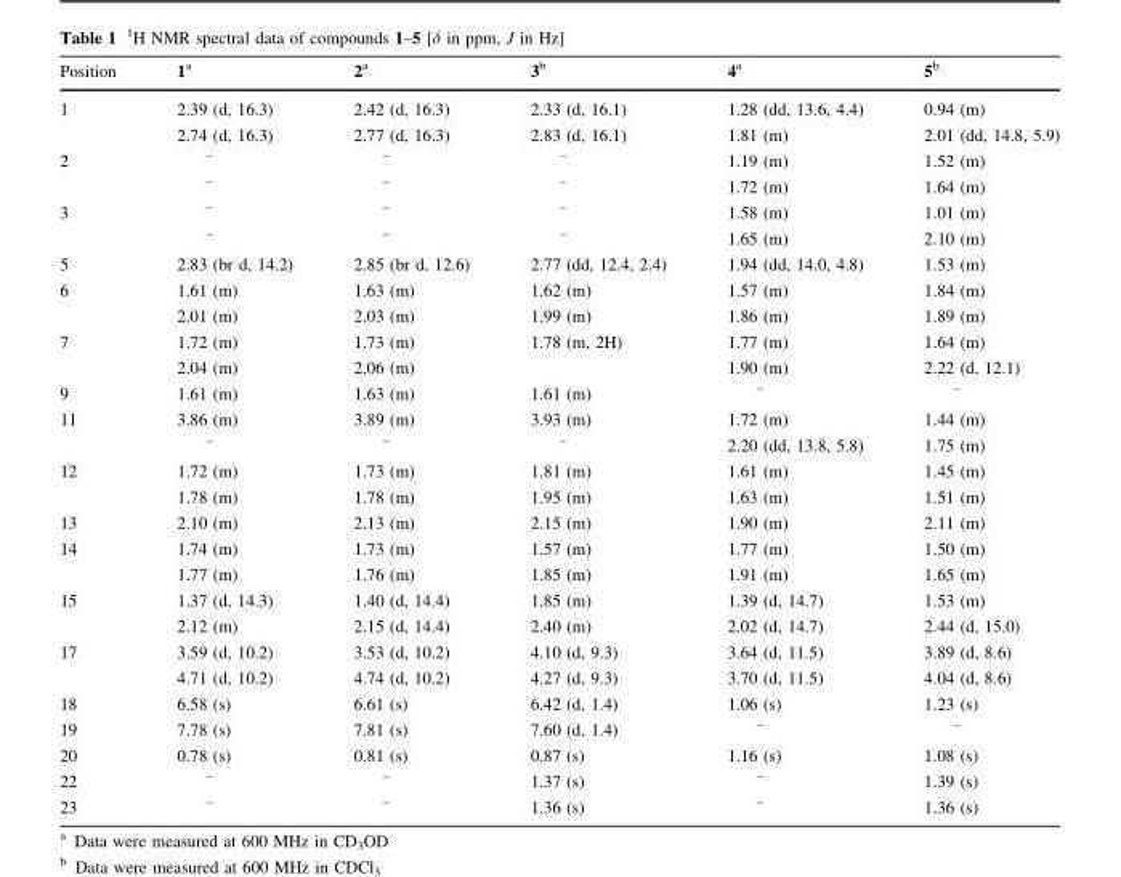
<table><thead><tr><td>Position</td><td>1<sup>a</sup></td><td>2<sup>a</sup></td><td>3<sup>b</sup></td><td>4<sup>a</sup></td><td>5<sup>b</sup></td></tr></thead><tbody><tr><td rowspan="2">1</td><td>2.39 (d, 16.3)</td><td>2.42 (d, 16.3)</td><td>2.33 (d, 16.1)</td><td>1.28 (dd, 13.6, 4.4)</td><td>0.94 (m)</td></tr><tr><td>2.74 (d, 16.3)</td><td>2.77 (d, 16.3)</td><td>2.83 (d, 16.1)</td><td>1.81 (m)</td><td>2.01 (dd, 14.8, 5.9)</td></tr><tr><td rowspan="2">2</td><td><sup>–</sup></td><td><sup>–</sup></td><td><sup>–</sup></td><td>1.19 (m)</td><td>1.52 (m)</td></tr><tr><td><sup>–</sup></td><td><sup>–</sup></td><td><sup>–</sup></td><td>1.72 (m)</td><td>1.64 (m)</td></tr><tr><td rowspan="2">3</td><td><sup>–</sup></td><td><sup>–</sup></td><td><sup>–</sup></td><td>1.58 (m)</td><td>1.01 (m)</td></tr><tr><td><sup>–</sup></td><td><sup>–</sup></td><td><sup>–</sup></td><td>1.65 (m)</td><td>2.10 (m)</td></tr><tr><td>5</td><td>2.83 (br d, 14.2)</td><td>2.85 (br d, 12.6)</td><td>2.77 (dd, 12.4, 2.4)</td><td>1.94 (dd, 14.0, 4.8)</td><td>1.53 (m)</td></tr><tr><td rowspan="2">6</td><td>1.61 (m)</td><td>1.63 (m)</td><td>1.62 (m)</td><td>1.57 (m)</td><td>1.84 (m)</td></tr><tr><td>2.01 (m)</td><td>2.03 (m)</td><td>1.99 (m)</td><td>1.86 (m)</td><td>1.89 (m)</td></tr><tr><td rowspan="2">7</td><td>1.72 (m)</td><td>1.73 (m)</td><td>1.78 (m, 2H)</td><td>1.77 (m)</td><td>1.64 (m)</td></tr><tr><td>2.04 (m)</td><td>2.06 (m)</td><td></td><td>1.90 (m)</td><td>2.22 (d, 12.1)</td></tr><tr><td>9</td><td>1.61 (m)</td><td>1.63 (m)</td><td>1.61 (m)</td><td><sup>–</sup></td><td><sup>–</sup></td></tr><tr><td rowspan="2">11</td><td>3.86 (m)</td><td>3.89 (m)</td><td>3.93 (m)</td><td>1.72 (m)</td><td>1.44 (m)</td></tr><tr><td><sup>–</sup></td><td><sup>–</sup></td><td><sup>–</sup></td><td>2.20 (dd, 13.8, 5.8)</td><td>1.75 (m)</td></tr><tr><td rowspan="2">12</td><td>1.72 (m)</td><td>1.73 (m)</td><td>1.81 (m)</td><td>1.61 (m)</td><td>1.45 (m)</td></tr><tr><td>1.78 (m)</td><td>1.78 (m)</td><td>1.95 (m)</td><td>1.63 (m)</td><td>1.51 (m)</td></tr><tr><td>13</td><td>2.10 (m)</td><td>2.13 (m)</td><td>2.15 (m)</td><td>1.90 (m)</td><td>2.11 (m)</td></tr><tr><td rowspan="2">14</td><td>1.74 (m)</td><td>1.73 (m)</td><td>1.57 (m)</td><td>1.77 (m)</td><td>1.50 (m)</td></tr><tr><td>1.77 (m)</td><td>1.76 (m)</td><td>1.85 (m)</td><td>1.91 (m)</td><td>1.65 (m)</td></tr><tr><td rowspan="2">15</td><td>1.37 (d, 14.3)</td><td>1.40 (d, 14.4)</td><td>1.85 (m)</td><td>1.39 (d, 14.7)</td><td>1.53 (m)</td></tr><tr><td>2.12 (m)</td><td>2.15 (d, 14.4)</td><td>2.40 (m)</td><td>2.02 (d, 14.7)</td><td>2.44 (d, 15.0)</td></tr><tr><td rowspan="2">17</td><td>3.59 (d, 10.2)</td><td>3.53 (d, 10.2)</td><td>4.10 (d, 9.3)</td><td>3.64 (d, 11.5)</td><td>3.89 (d, 8.6)</td></tr><tr><td>4.71 (d, 10.2)</td><td>4.74 (d, 10.2)</td><td>4.27 (d, 9.3)</td><td>3.70 (d, 11.5)</td><td>4.04 (d, 8.6)</td></tr><tr><td>18</td><td>6.58 (s)</td><td>6.61 (s)</td><td>6.42 (d, 1.4)</td><td>1.06 (s)</td><td>1.23 (s)</td></tr><tr><td>19</td><td>7.78 (s)</td><td>7.81 (s)</td><td>7.60 (d, 1.4)</td><td><sup>–</sup></td><td><sup>–</sup></td></tr><tr><td>20</td><td>0.78 (s)</td><td>0.81 (s)</td><td>0.87 (s)</td><td>1.16 (s)</td><td>1.08 (s)</td></tr><tr><td>22</td><td><sup>–</sup></td><td><sup>–</sup></td><td>1.37 (s)</td><td><sup>–</sup></td><td>1.39 (s)</td></tr><tr><td>23</td><td><sup>–</sup></td><td><sup>–</sup></td><td>1.36 (s)</td><td><sup>–</sup></td><td>1.36 (s)</td></tr></tbody></table>